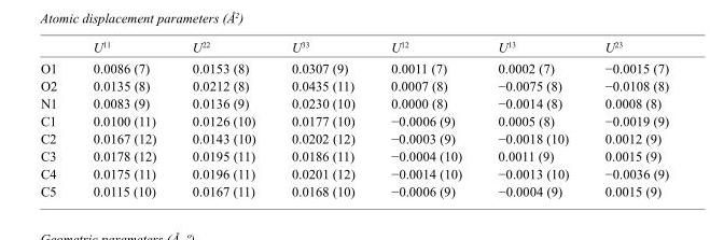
<table><thead><tr><td></td><td>U<sup>11</sup></td><td>U<sup>22</sup></td><td>U<sup>33</sup></td><td>U<sup>12</sup></td><td>U<sup>13</sup></td><td>U<sup>23</sup></td></tr></thead><tbody><tr><td>O1</td><td>0.0086 (7)</td><td>0.0153 (8)</td><td>0.0307 (9)</td><td>0.0011 (7)</td><td>0.0002 (7)</td><td>−0.0015 (7)</td></tr><tr><td>O2</td><td>0.0135 (8)</td><td>0.0212 (8)</td><td>0.0435 (11)</td><td>0.0007 (8)</td><td>−0.0075 (8)</td><td>−0.0108 (8)</td></tr><tr><td>N1</td><td>0.0083 (9)</td><td>0.0136 (9)</td><td>0.0230 (10)</td><td>0.0000 (8)</td><td>−0.0014 (8)</td><td>0.0008 (8)</td></tr><tr><td>C1</td><td>0.0100 (11)</td><td>0.0126 (10)</td><td>0.0177 (10)</td><td>−0.0006 (9)</td><td>0.0005 (8)</td><td>−0.0019 (9)</td></tr><tr><td>C2</td><td>0.0167 (12)</td><td>0.0143 (10)</td><td>0.0202 (12)</td><td>−0.0003 (9)</td><td>−0.0018 (10)</td><td>0.0012 (9)</td></tr><tr><td>C3</td><td>0.0178 (12)</td><td>0.0195 (11)</td><td>0.0186 (11)</td><td>−0.0004 (10)</td><td>0.0011 (9)</td><td>0.0015 (9)</td></tr><tr><td>C4</td><td>0.0175 (11)</td><td>0.0196 (11)</td><td>0.0201 (12)</td><td>−0.0014 (10)</td><td>−0.0013 (10)</td><td>−0.0036 (9)</td></tr><tr><td>C5</td><td>0.0115 (10)</td><td>0.0167 (11)</td><td>0.0168 (10)</td><td>−0.0006 (9)</td><td>−0.0004 (9)</td><td>0.0015 (9)</td></tr></tbody></table>